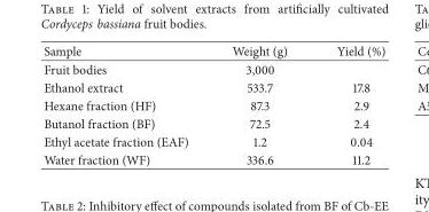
<table><thead><tr><td>Sample</td><td>Weight (g)</td><td>Yield (%)</td></tr></thead><tbody><tr><td>Fruit bodies</td><td>3,000</td><td></td></tr><tr><td>Ethanol extract</td><td>533.7</td><td>17.8</td></tr><tr><td>Hexane fraction (HF)</td><td>87.3</td><td>2.9</td></tr><tr><td>Butanol fraction (BF)</td><td>72.5</td><td>2.4</td></tr><tr><td>Ethyl acetate fraction (EAF)</td><td>1.2</td><td>0.04</td></tr><tr><td>Water fraction (WF)</td><td>336.6</td><td>11.2</td></tr></tbody></table>